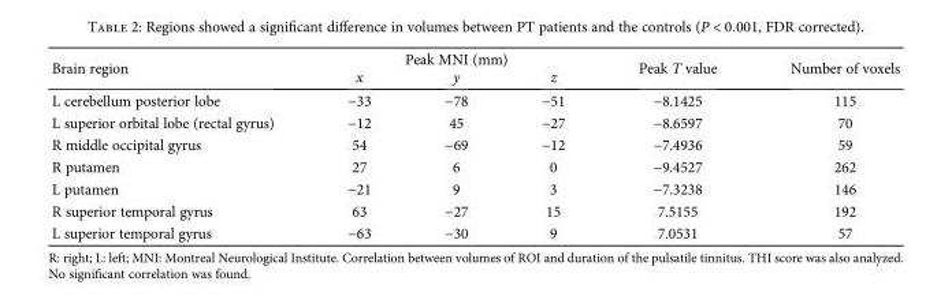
<table><thead><tr><td rowspan="2">Brain region</td><td colspan="3">Peak MNI (mm)</td><td rowspan="2">Peak T value</td><td rowspan="2">Number of voxels</td></tr><tr><td>x</td><td>y</td><td>z</td></tr></thead><tbody><tr><td>L cerebellum posterior lobe</td><td>−33</td><td>−78</td><td>−51</td><td>−8.1425</td><td>115</td></tr><tr><td>L superior orbital lobe (rectal gyrus)</td><td>−12</td><td>45</td><td>−27</td><td>−8.6597</td><td>70</td></tr><tr><td>R middle occipital gyrus</td><td>54</td><td>−69</td><td>−12</td><td>−7.4936</td><td>59</td></tr><tr><td>R putamen</td><td>27</td><td>6</td><td>0</td><td>−9.4527</td><td>262</td></tr><tr><td>L putamen</td><td>−21</td><td>9</td><td>3</td><td>−7.3238</td><td>146</td></tr><tr><td>R superior temporal gyrus</td><td>63</td><td>−27</td><td>15</td><td>7.5155</td><td>192</td></tr><tr><td>L superior temporal gyrus</td><td>−63</td><td>−30</td><td>9</td><td>7.0531</td><td>57</td></tr></tbody></table>